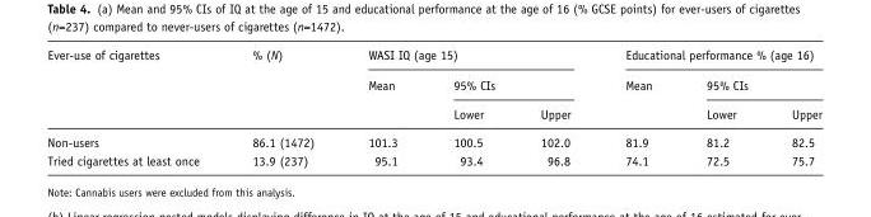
<table><thead><tr><td rowspan="3">Ever-use of cigarettes</td><td rowspan="3">% (N)</td><td colspan="3">WASI IQ (age 15)</td><td colspan="3">Educational performance % (age 16)</td></tr><tr><td rowspan="2">Mean</td><td colspan="2">95% CIs</td><td rowspan="2">Mean</td><td colspan="2">95% CIs</td></tr><tr><td>Lower</td><td>Upper</td><td>Lower</td><td>Upper</td></tr></thead><tbody><tr><td>Non-users</td><td>86.1 (1472)</td><td>101.3</td><td>100.5</td><td>102.0</td><td>81.9</td><td>81.2</td><td>82.5</td></tr><tr><td>Tried cigarettes at least once</td><td>13.9 (237)</td><td>95.1</td><td>93.4</td><td>96.8</td><td>74.1</td><td>72.5</td><td>75.7</td></tr></tbody></table>